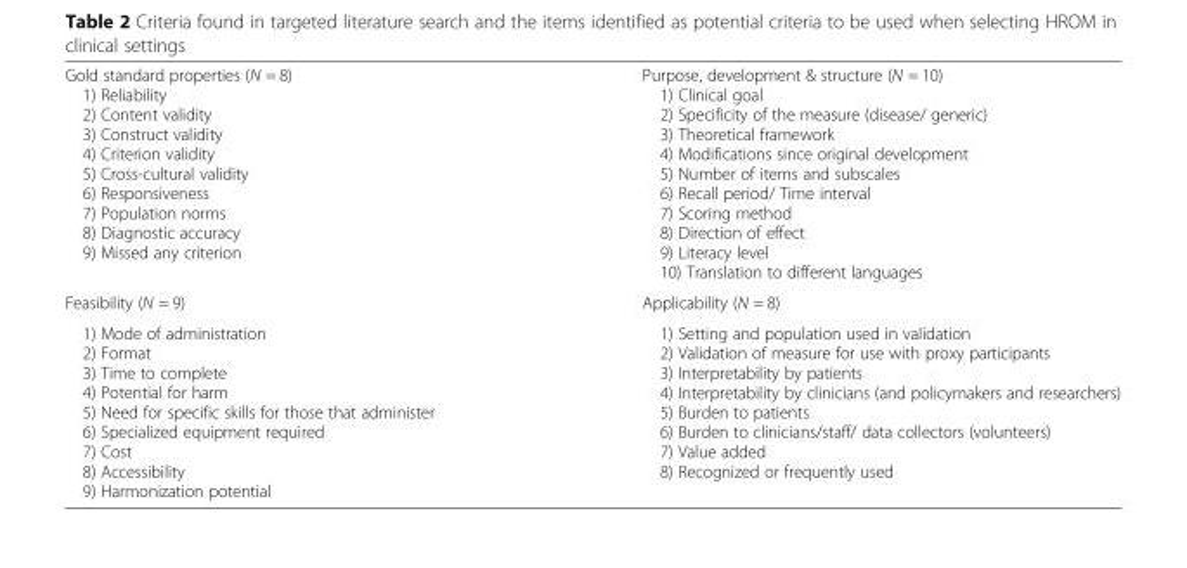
<table><thead><tr><td>Gold standard properties (N = 8)</td><td>Purpose, development &amp; structure (N = 10)</td></tr></thead><tbody><tr><td>1) Reliability 2) Content validity 3) Construct validity 4) Criterion validity 5) Cross-cultural validity 6) Responsiveness 7) Population norms 8) Diagnostic accuracy 9) Missed any criterion</td><td>1) Clinical goal 2) Specificity of the measure (disease/ generic) 3) Theoretical framework 4) Modifications since original development 5) Number of items and subscales 6) Recall period/ Time interval 7) Scoring method 8) Direction of effect 9) Literacy level 10) Translation to different languages</td></tr><tr><td>Feasibility (N = 9)</td><td>Applicability (N = 8)</td></tr><tr><td>1) Mode of administration 2) Format 3) Time to complete 4) Potential for harm 5) Need for specific skills for those that administer 6) Specialized equipment required 7) Cost 8) Accessibility 9) Harmonization potential</td><td>1) Setting and population used in validation 2) Validation of measure for use with proxy participants 3) Interpretability by patients 4) Interpretability by clinicians (and policymakers and researchers) 5) Burden to patients 6) Burden to clinicians/staff/ data collectors (volunteers) 7) Value added 8) Recognized or frequently used</td></tr></tbody></table>